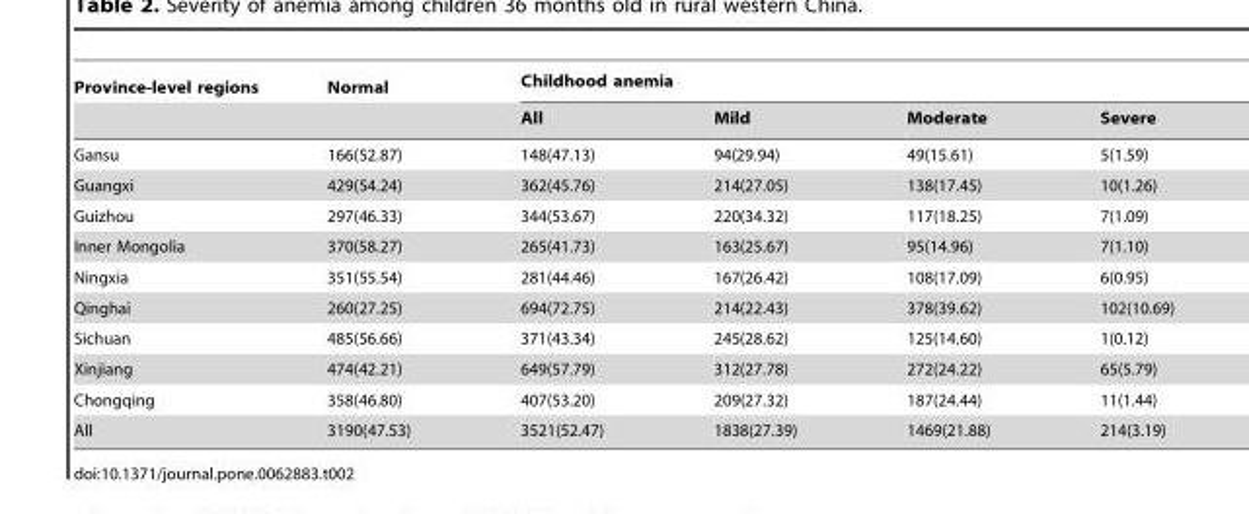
<table><thead><tr><td rowspan="2">Province-level regions</td><td rowspan="2">Normal</td><td colspan="4">Childhood anemia</td></tr><tr><td>All</td><td>Mild</td><td>Moderate</td><td>Severe</td></tr></thead><tbody><tr><td>Gansu</td><td>166(52.87)</td><td>148(47.13)</td><td>94(29.94)</td><td>49(15.61)</td><td>5(1.59)</td></tr><tr><td>Guangxi</td><td>429(54.24)</td><td>362(45.76)</td><td>214(27.05)</td><td>138(17.45)</td><td>10(1.26)</td></tr><tr><td>Guizhou</td><td>297(46.33)</td><td>344(53.67)</td><td>220(34.32)</td><td>117(18.25)</td><td>7(1.09)</td></tr><tr><td>Inner Mongolia</td><td>370(58.27)</td><td>265(41.73)</td><td>163(25.67)</td><td>95(14.96)</td><td>7(1.10)</td></tr><tr><td>Ningxia</td><td>351(55.54)</td><td>281(44.46)</td><td>167(26.42)</td><td>108(17.09)</td><td>6(0.95)</td></tr><tr><td>Qinghai</td><td>260(27.25)</td><td>694(72.75)</td><td>214(22.43)</td><td>378(39.62)</td><td>102(10.69)</td></tr><tr><td>Sichuan</td><td>485(56.66)</td><td>371(43.34)</td><td>245(28.62)</td><td>125(14.60)</td><td>1(0.12)</td></tr><tr><td>Xinjiang</td><td>474(42.21)</td><td>649(57.79)</td><td>312(27.78)</td><td>272(24.22)</td><td>65(5.79)</td></tr><tr><td>Chongqing</td><td>358(46.80)</td><td>407(53.20)</td><td>209(27.32)</td><td>187(24.44)</td><td>11(1.44)</td></tr><tr><td>All</td><td>3190(47.53)</td><td>3521(52.47)</td><td>1838(27.39)</td><td>1469(21.88)</td><td>214(3.19)</td></tr></tbody></table>